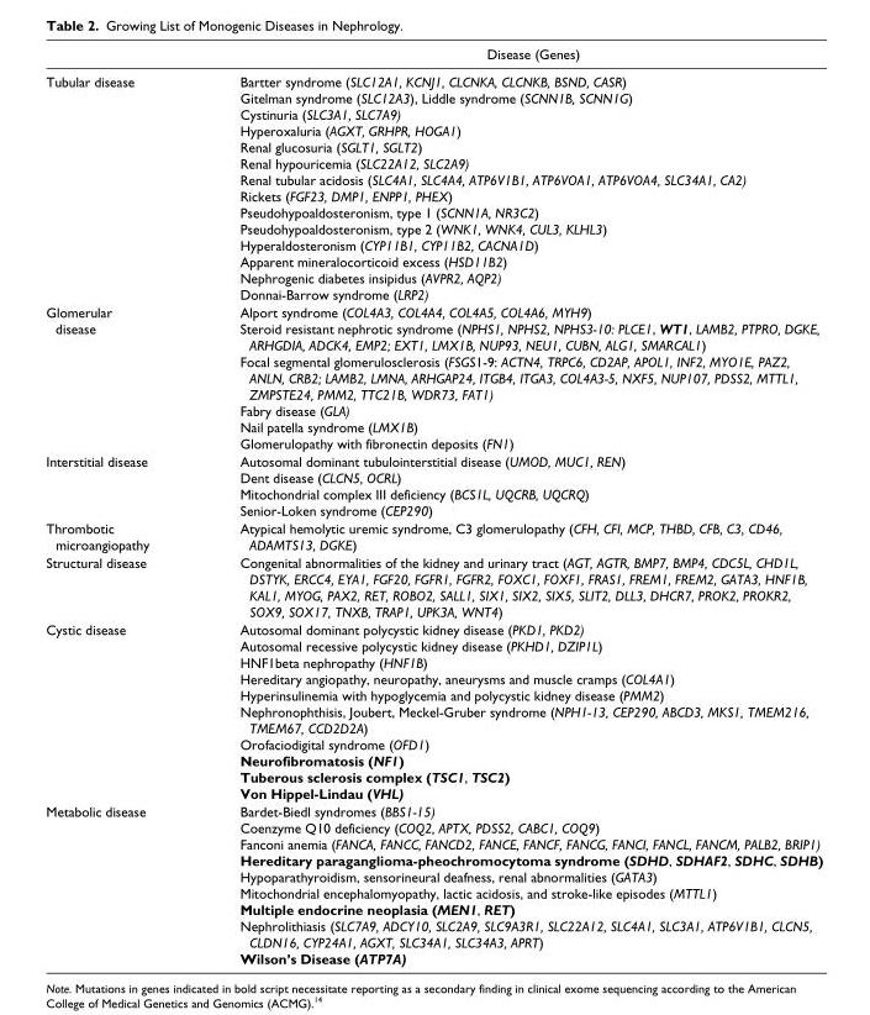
<table><thead><tr><td></td><td>Disease (Genes)</td></tr></thead><tbody><tr><td>Tubular disease</td><td>Bartter syndrome (SLC12A1, KCNJ1, CLCNKA, CLCNKB, BSND, CASR) Gitelman syndrome (SLC12A3), Liddle syndrome (SCNN1B, SCNN1G) Cystinuria (SLC3A1, SLC7A9) Hyperoxaluria (AGXT, GRHPR, HOGA1) Renal glucosuria (SGLT1, SGLT2) Renal hypouricemia (SLC22A12, SLC2A9) Renal tubular acidosis (SLC4A1, SLC4A4, ATP6V1B1, ATP6VOA1, ATP6VOA4, SLC34A1, CA2) Rickets (FGF23, DMP1, ENPP1, PHEX) Pseudohypoaldosteronism, type 1 (SCNN1A, NR3C2) Pseudohypoaldosteronism, type 2 (WNK1, WNK4, CUL3, KLHL3) Hyperaldosteronism (CYP11B1, CYP11B2, CACNA1D) Apparent mineralocorticoid excess (HSD11B2) Nephrogenic diabetes insipidus (AVPR2, AQP2) Donnai-Barrow syndrome (LRP2)</td></tr><tr><td>Glomerular disease</td><td>Alport syndrome (COL4A3, COL4A4, COL4A5, COL4A6, MYH9) Steroid resistant nephrotic syndrome (NPHS1, NPHS2, NPHS3-10: PLCE1, WT1, LAMB2, PTPRO, DGKE, ARHGDIA, ADCK4, EMP2; EXT1, LMX1B, NUP93, NEU1, CUBN, ALG1, SMARCAL1) Focal segmental glomerulosclerosis (FSGS1-9: ACTN4, TRPC6, CD2AP, APOL1, INF2, MYO1E, PAZ2, ANLN, CRB2; LAMB2, LMNA, ARHGAP24, ITGB4, ITGA3, COL4A3-5, NXF5, NUP107, PDSS2, MTTL1, ZMPSTE24, PMM2, TTC21B, WDR73, FAT1) Fabry disease (GLA) Nail patella syndrome (LMX1B) Glomerulopathy with fibronectin deposits (FN1)</td></tr><tr><td>Interstitial disease</td><td>Autosomal dominant tubulointerstitial disease (UMOD, MUC1, REN) Dent disease (CLCN5, OCRL) Mitochondrial complex III deficiency (BCS1L, UQCRB, UQCRQ) Senior-Loken syndrome (CEP290)</td></tr><tr><td>Thrombotic microangiopathy</td><td>Atypical hemolytic uremic syndrome, C3 glomerulopathy (CFH, CFI, MCP, THBD, CFB, C3, CD46, ADAMTS13, DGKE)</td></tr><tr><td>Structural disease</td><td>Congenital abnormalities of the kidney and urinary tract (AGT, AGTR, BMP7, BMP4, CDC5L, CHD1L, DSTYK, ERCC4, EYA1, FGF20, FGFR1, FGFR2, FOXC1, FOXF1, FRAS1, FREM1, FREM2, GATA3, HNF1B, KAL1, MYOG, PAX2, RET, ROBO2, SALL1, SIX1, SIX2, SIX5, SLIT2, DLL3, DHCR7, PROK2, PROKR2, SOX9, SOX17, TNXB, TRAP1, UPK3A, WNT4)</td></tr><tr><td>Cystic disease</td><td>Autosomal dominant polycystic kidney disease (PKD1, PKD2) Autosomal recessive polycystic kidney disease (PKHD1, DZIP1L) HNF1beta nephropathy (HNF1B) Hereditary angiopathy, neuropathy, aneurysms and muscle cramps (COL4A1) Hyperinsulinemia with hypoglycemia and polycystic kidney disease (PMM2) Nephronophthisis, Joubert, Meckel-Gruber syndrome (NPH1-13, CEP290, ABCD3, MKS1, TMEM216, TMEM67, CCD2D2A) Orofaciodigital syndrome (OFD1) Neurofibromatosis (NF1) Tuberous sclerosis complex (TSC1, TSC2) Von Hippel-Lindau (VHL)</td></tr><tr><td>Metabolic disease</td><td>Bardet-Biedl syndromes (BBS1-15) Coenzyme Q10 deficiency (COQ2, APTX, PDSS2, CABC1, COQ9) Fanconi anemia (FANCA, FANCC, FANCD2, FANCE, FANCF, FANCG, FANCI, FANCL, FANCM, PALB2, BRIP1) Hereditary paraganglioma-pheochromocytoma syndrome (SDHD, SDHAF2, SDHC, SDHB) Hypoparathyroidism, sensorineural deafness, renal abnormalities (GATA3) Mitochondrial encephalomyopathy, lactic acidosis, and stroke-like episodes (MTTL1) Multiple endocrine neoplasia (MEN1, RET) Nephrolithiasis (SLC7A9, ADCY10, SLC2A9, SLC9A3R1, SLC22A12, SLC4A1, SLC3A1, ATP6V1B1, CLCN5, CLDN16, CYP24A1, AGXT, SLC34A1, SLC34A3, APRT) Wilson’s Disease (ATP7A)</td></tr></tbody></table>